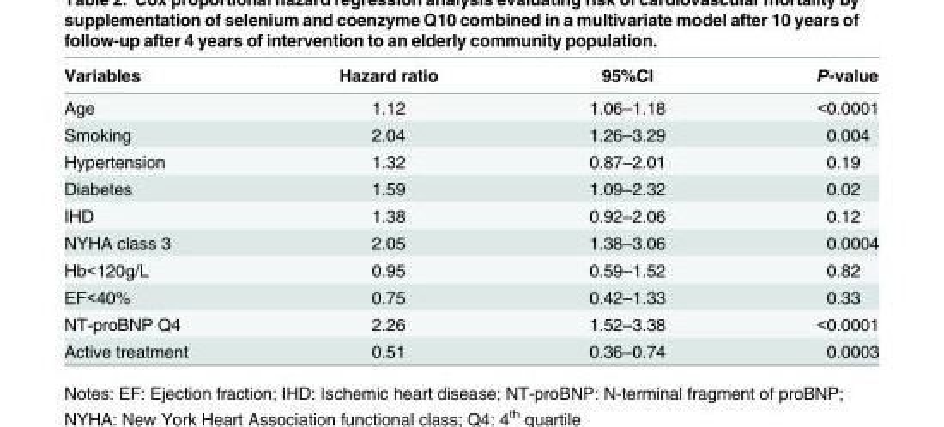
<table><thead><tr><td>Variables</td><td>Hazard ratio</td><td>95%CI</td><td>P-value</td></tr></thead><tbody><tr><td>Age</td><td>1.12</td><td>1.06–1.18</td><td>&lt;0.0001</td></tr><tr><td>Smoking</td><td>2.04</td><td>1.26–3.29</td><td>0.004</td></tr><tr><td>Hypertension</td><td>1.32</td><td>0.87–2.01</td><td>0.19</td></tr><tr><td>Diabetes</td><td>1.59</td><td>1.09–2.32</td><td>0.02</td></tr><tr><td>IHD</td><td>1.38</td><td>0.92–2.06</td><td>0.12</td></tr><tr><td>NYHA class 3</td><td>2.05</td><td>1.38–3.06</td><td>0.0004</td></tr><tr><td>Hb&lt;120g/L</td><td>0.95</td><td>0.59–1.52</td><td>0.82</td></tr><tr><td>EF&lt;40%</td><td>0.75</td><td>0.42–1.33</td><td>0.33</td></tr><tr><td>NT-proBNP Q4</td><td>2.26</td><td>1.52–3.38</td><td>&lt;0.0001</td></tr><tr><td>Active treatment</td><td>0.51</td><td>0.36–0.74</td><td>0.0003</td></tr></tbody></table>